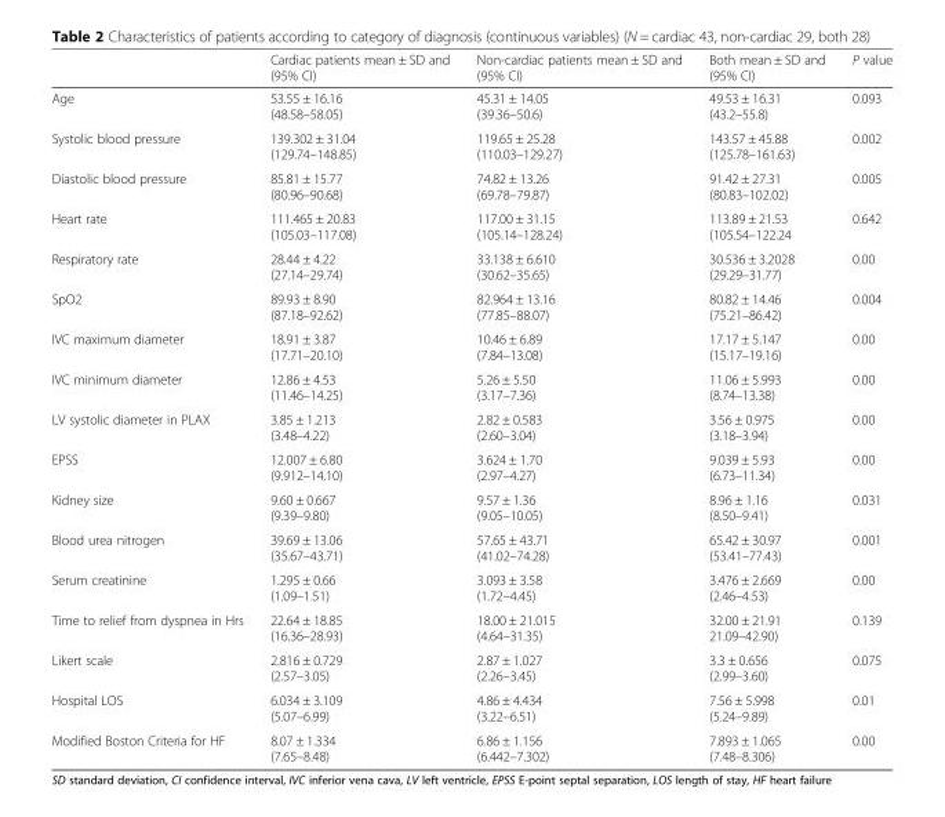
<table><thead><tr><td></td><td>Cardiac patients mean ± SD and (95% CI)</td><td>Non-cardiac patients mean ± SD and (95% CI)</td><td>Both mean ± SD and (95% CI)</td><td>P value</td></tr></thead><tbody><tr><td>Age</td><td>53.55 ± 16.16 (48.58–58.05)</td><td>45.31 ± 14.05 (39.36–50.6)</td><td>49.53 ± 16.31 (43.2–55.8)</td><td>0.093</td></tr><tr><td>Systolic blood pressure</td><td>139.302 ± 31.04 (129.74–148.85)</td><td>119.65 ± 25.28 (110.03–129.27)</td><td>143.57 ± 45.88 (125.78–161.63)</td><td>0.002</td></tr><tr><td>Diastolic blood pressure</td><td>85.81 ± 15.77 (80.96–90.68)</td><td>74.82 ± 13.26 (69.78–79.87)</td><td>91.42 ± 27.31 (80.83–102.02)</td><td>0.005</td></tr><tr><td>Heart rate</td><td>111.465 ± 20.83 (105.03–117.08)</td><td>117.00 ± 31.15 (105.14–128.24)</td><td>113.89 ± 21.53 (105.54–122.24</td><td>0.642</td></tr><tr><td>Respiratory rate</td><td>28.44 ± 4.22 (27.14–29.74)</td><td>33.138 ± 6.610 (30.62–35.65)</td><td>30.536 ± 3.2028 (29.29–31.77)</td><td>0.00</td></tr><tr><td>SpO2</td><td>89.93 ± 8.90 (87.18–92.62)</td><td>82.964 ± 13.16 (77.85–88.07)</td><td>80.82 ± 14.46 (75.21–86.42)</td><td>0.004</td></tr><tr><td>IVC maximum diameter</td><td>18.91 ± 3.87 (17.71–20.10)</td><td>10.46 ± 6.89 (7.84–13.08)</td><td>17.17 ± 5.147 (15.17–19.16)</td><td>0.00</td></tr><tr><td>IVC minimum diameter</td><td>12.86 ± 4.53 (11.46–14.25)</td><td>5.26 ± 5.50 (3.17–7.36)</td><td>11.06 ± 5.993 (8.74–13.38)</td><td>0.00</td></tr><tr><td>LV systolic diameter in PLAX</td><td>3.85 ± 1.213 (3.48–4.22)</td><td>2.82 ± 0.583 (2.60–3.04)</td><td>3.56 ± 0.975 (3.18–3.94)</td><td>0.00</td></tr><tr><td>EPSS</td><td>12.007 ± 6.80 (9.912–14.10)</td><td>3.624 ± 1.70 (2.97–4.27)</td><td>9.039 ± 5.93 (6.73–11.34)</td><td>0.00</td></tr><tr><td>Kidney size</td><td>9.60 ± 0.667 (9.39–9.80)</td><td>9.57 ± 1.36 (9.05–10.05)</td><td>8.96 ± 1.16 (8.50–9.41)</td><td>0.031</td></tr><tr><td>Blood urea nitrogen</td><td>39.69 ± 13.06 (35.67–43.71)</td><td>57.65 ± 43.71 (41.02–74.28)</td><td>65.42 ± 30.97 (53.41–77.43)</td><td>0.001</td></tr><tr><td>Serum creatinine</td><td>1.295 ± 0.66 (1.09–1.51)</td><td>3.093 ± 3.58 (1.72–4.45)</td><td>3.476 ± 2.669 (2.46–4.53)</td><td>0.00</td></tr><tr><td>Time to relief from dyspnea in Hrs</td><td>22.64 ± 18.85 (16.36–28.93)</td><td>18.00 ± 21.015 (4.64–31.35)</td><td>32.00 ± 21.91 21.09–42.90)</td><td>0.139</td></tr><tr><td>Likert scale</td><td>2.816 ± 0.729 (2.57–3.05)</td><td>2.87 ± 1.027 (2.26–3.45)</td><td>3.3 ± 0.656 (2.99–3.60)</td><td>0.075</td></tr><tr><td>Hospital LOS</td><td>6.034 ± 3.109 (5.07–6.99)</td><td>4.86 ± 4.434 (3.22–6.51)</td><td>7.56 ± 5.998 (5.24–9.89)</td><td>0.01</td></tr><tr><td>Modified Boston Criteria for HF</td><td>8.07 ± 1.334 (7.65–8.48)</td><td>6.86 ± 1.156 (6.442–7.302)</td><td>7.893 ± 1.065 (7.48–8.306)</td><td>0.00</td></tr></tbody></table>